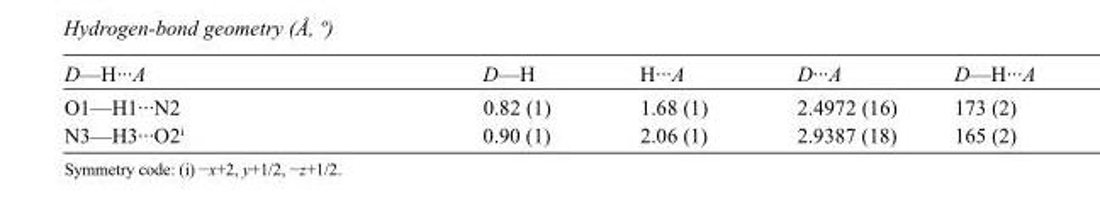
<table><tbody><tr><td>D—H···A</td><td>D—H</td><td>H···A</td><td>D···A</td><td>D—H···A</td></tr><tr><td>O1—H1···N2</td><td>0.82 (1)</td><td>1.68 (1)</td><td>2.4972 (16)</td><td>173 (2)</td></tr><tr><td>N3—H3···O2<sup>i</sup></td><td>0.90 (1)</td><td>2.06 (1)</td><td>2.9387 (18)</td><td>165 (2)</td></tr></tbody></table>